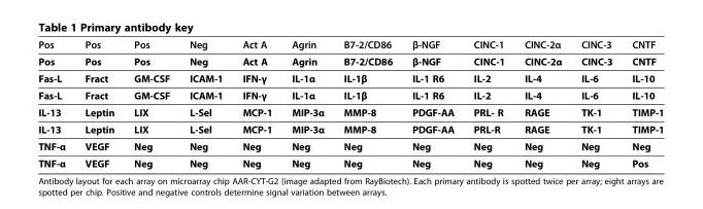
<table><thead><tr><td>Pos</td><td>Pos</td><td>Pos</td><td>Neg</td><td>Act A</td><td>Agrin</td><td>B7-2/CD86</td><td>β-NGF</td><td>CINC-1</td><td>CINC-2α</td><td>CINC-3</td><td>CNTF</td></tr></thead><tbody><tr><td>Pos</td><td>Pos</td><td>Pos</td><td>Neg</td><td>Act A</td><td>Agrin</td><td>B7-2/CD86</td><td>β-NGF</td><td>CINC-1</td><td>CINC-2α</td><td>CINC-3</td><td>CNTF</td></tr><tr><td>Fas-L</td><td>Fract</td><td>GM-CSF</td><td>ICAM-1</td><td>IFN-γ</td><td>IL-1α</td><td>IL-1β</td><td>IL-1 R6</td><td>IL-2</td><td>IL-4</td><td>IL-6</td><td>IL-10</td></tr><tr><td>Fas-L</td><td>Fract</td><td>GM-CSF</td><td>ICAM-1</td><td>IFN-γ</td><td>IL-1α</td><td>IL-1β</td><td>IL-1 R6</td><td>IL-2</td><td>IL-4</td><td>IL-6</td><td>IL-10</td></tr><tr><td>IL-13</td><td>Leptin</td><td>LIX</td><td>L-Sel</td><td>MCP-1</td><td>MIP-3α</td><td>MMP-8</td><td>PDGF-AA</td><td>PRL- R</td><td>RAGE</td><td>TK-1</td><td>TIMP-1</td></tr><tr><td>IL-13</td><td>Leptin</td><td>LIX</td><td>L-Sel</td><td>MCP-1</td><td>MIP-3α</td><td>MMP-8</td><td>PDGF-AA</td><td>PRL-R</td><td>RAGE</td><td>TK-1</td><td>TIMP-1</td></tr><tr><td>TNF-α</td><td>VEGF</td><td>Neg</td><td>Neg</td><td>Neg</td><td>Neg</td><td>Neg</td><td>Neg</td><td>Neg</td><td>Neg</td><td>Neg</td><td>Neg</td></tr><tr><td>TNF-α</td><td>VEGF</td><td>Neg</td><td>Neg</td><td>Neg</td><td>Neg</td><td>Neg</td><td>Neg</td><td>Neg</td><td>Neg</td><td>Neg</td><td>Pos</td></tr></tbody></table>